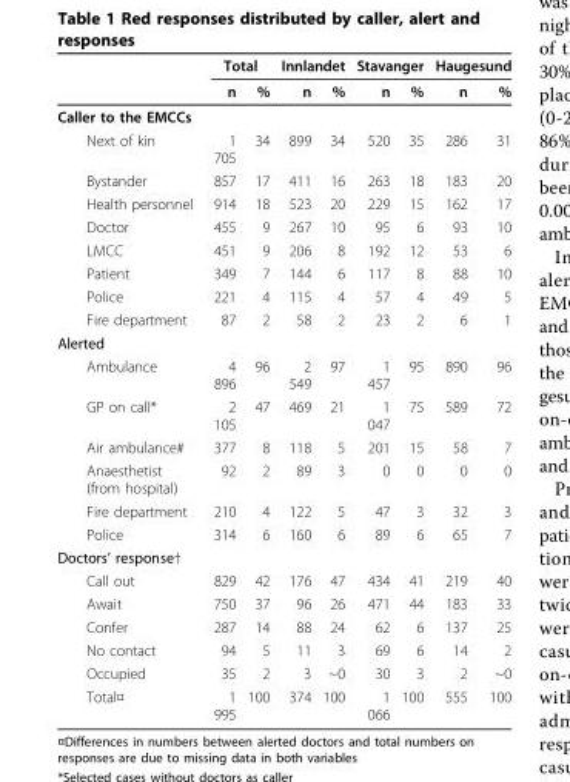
<table><thead><tr><td rowspan="2"></td><td colspan="2">Total</td><td colspan="2">Innlandet</td><td colspan="2">Stavanger</td><td colspan="2">Haugesund</td></tr><tr><td>n</td><td>%</td><td>n</td><td>%</td><td>n</td><td>%</td><td>n</td><td>%</td></tr></thead><tbody><tr><td colspan="9">Caller to the EMCCs</td></tr><tr><td>Next of kin</td><td>1 705</td><td>34</td><td>899</td><td>34</td><td>520</td><td>35</td><td>286</td><td>31</td></tr><tr><td>Bystander</td><td>857</td><td>17</td><td>411</td><td>16</td><td>263</td><td>18</td><td>183</td><td>20</td></tr><tr><td>Health personnel</td><td>914</td><td>18</td><td>523</td><td>20</td><td>229</td><td>15</td><td>162</td><td>17</td></tr><tr><td>Doctor</td><td>455</td><td>9</td><td>267</td><td>10</td><td>95</td><td>6</td><td>93</td><td>10</td></tr><tr><td>LMCC</td><td>451</td><td>9</td><td>206</td><td>8</td><td>192</td><td>12</td><td>53</td><td>6</td></tr><tr><td>Patient</td><td>349</td><td>7</td><td>144</td><td>6</td><td>117</td><td>8</td><td>88</td><td>10</td></tr><tr><td>Police</td><td>221</td><td>4</td><td>115</td><td>4</td><td>57</td><td>4</td><td>49</td><td>5</td></tr><tr><td>Fire department</td><td>87</td><td>2</td><td>58</td><td>2</td><td>23</td><td>2</td><td>6</td><td>1</td></tr><tr><td colspan="9">Alerted</td></tr><tr><td>Ambulance</td><td>4 896</td><td>96</td><td>2 549</td><td>97</td><td>1 457</td><td>95</td><td>890</td><td>96</td></tr><tr><td>GP on call*</td><td>2 105</td><td>47</td><td>469</td><td>21</td><td>1 047</td><td>75</td><td>589</td><td>72</td></tr><tr><td>Air ambulance#</td><td>377</td><td>8</td><td>118</td><td>5</td><td>201</td><td>15</td><td>58</td><td>7</td></tr><tr><td>Anaesthetist (from hospital)</td><td>92</td><td>2</td><td>89</td><td>3</td><td>0</td><td>0</td><td>0</td><td>0</td></tr><tr><td>Fire department</td><td>210</td><td>4</td><td>122</td><td>5</td><td>47</td><td>3</td><td>32</td><td>3</td></tr><tr><td>Police</td><td>314</td><td>6</td><td>160</td><td>6</td><td>89</td><td>6</td><td>65</td><td>7</td></tr><tr><td colspan="9">Doctors’ response†</td></tr><tr><td>Call out</td><td>829</td><td>42</td><td>176</td><td>47</td><td>434</td><td>41</td><td>219</td><td>40</td></tr><tr><td>Await</td><td>750</td><td>37</td><td>96</td><td>26</td><td>471</td><td>44</td><td>183</td><td>33</td></tr><tr><td>Confer</td><td>287</td><td>14</td><td>88</td><td>24</td><td>62</td><td>6</td><td>137</td><td>25</td></tr><tr><td>No contact</td><td>94</td><td>5</td><td>11</td><td>3</td><td>69</td><td>6</td><td>14</td><td>2</td></tr><tr><td>Occupied</td><td>35</td><td>2</td><td>3</td><td>~0</td><td>30</td><td>3</td><td>2</td><td>~0</td></tr><tr><td>Total¤</td><td>1 995</td><td>100</td><td>374</td><td>100</td><td>1 066</td><td>100</td><td>555</td><td>100</td></tr></tbody></table>